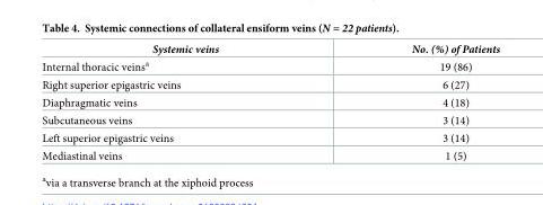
<table><thead><tr><td>Systemic veins</td><td>No. (%) of Patients</td></tr></thead><tbody><tr><td>Internal thoracic veins<sup>a</sup></td><td>19 (86)</td></tr><tr><td>Right superior epigastric veins</td><td>6 (27)</td></tr><tr><td>Diaphragmatic veins</td><td>4 (18)</td></tr><tr><td>Subcutaneous veins</td><td>3 (14)</td></tr><tr><td>Left superior epigastric veins</td><td>3 (14)</td></tr><tr><td>Mediastinal veins</td><td>1 (5)</td></tr></tbody></table>